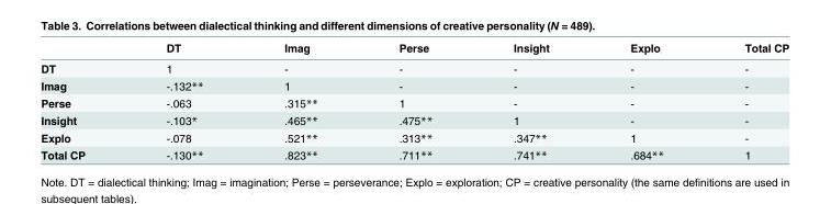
<table><thead><tr><td></td><td>DT</td><td>Imag</td><td>Perse</td><td>Insight</td><td>Explo</td><td>Total CP</td></tr></thead><tbody><tr><td>DT</td><td>1</td><td>-</td><td>-</td><td>-</td><td>-</td><td>-</td></tr><tr><td>Imag</td><td>-.132**</td><td>1</td><td>-</td><td>-</td><td>-</td><td>-</td></tr><tr><td>Perse</td><td>-.063</td><td>.315**</td><td>1</td><td>-</td><td>-</td><td>-</td></tr><tr><td>Insight</td><td>-.103*</td><td>.465**</td><td>.475**</td><td>1</td><td>-</td><td>-</td></tr><tr><td>Explo</td><td>-.078</td><td>.521**</td><td>.313**</td><td>.347**</td><td>1</td><td>-</td></tr><tr><td>Total CP</td><td>-.130**</td><td>.823**</td><td>.711**</td><td>.741**</td><td>.684**</td><td>1</td></tr></tbody></table>